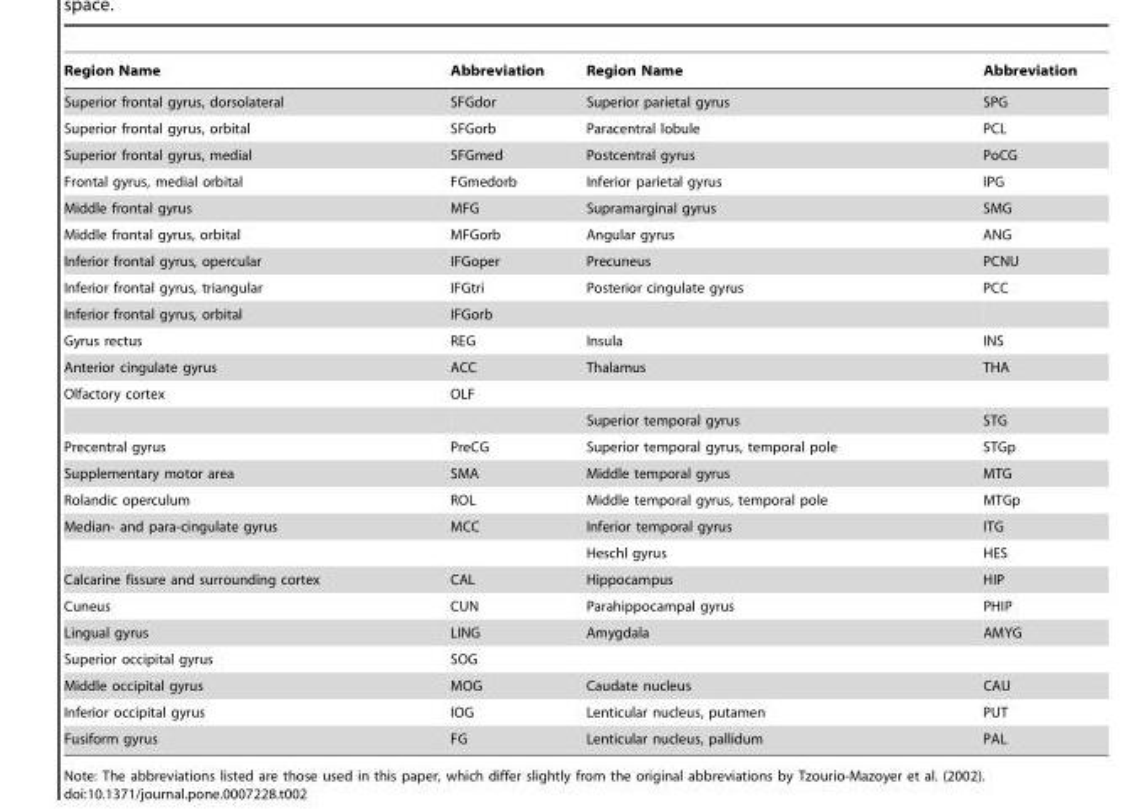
<table><thead><tr><td>Region Name</td><td>Abbreviation</td><td>Region Name</td><td>Abbreviation</td></tr></thead><tbody><tr><td>Superior frontal gyrus, dorsolateral</td><td>SFGdor</td><td>Superior parietal gyrus</td><td>SPG</td></tr><tr><td>Superior frontal gyrus, orbital</td><td>SFGorb</td><td>Paracentral lobule</td><td>PCL</td></tr><tr><td>Superior frontal gyrus, medial</td><td>SFGmed</td><td>Postcentral gyrus</td><td>PoCG</td></tr><tr><td>Frontal gyrus, medial orbital</td><td>FGmedorb</td><td>Inferior parietal gyrus</td><td>IPG</td></tr><tr><td>Middle frontal gyrus</td><td>MFG</td><td>Supramarginal gyrus</td><td>SMG</td></tr><tr><td>Middle frontal gyrus, orbital</td><td>MFGorb</td><td>Angular gyrus</td><td>ANG</td></tr><tr><td>Inferior frontal gyrus, opercular</td><td>IFGoper</td><td>Precuneus</td><td>PCNU</td></tr><tr><td>Inferior frontal gyrus, triangular</td><td>IFGtri</td><td>Posterior cingulate gyrus</td><td>PCC</td></tr><tr><td>Inferior frontal gyrus, orbital</td><td>IFGorb</td><td></td><td></td></tr><tr><td>Gyrus rectus</td><td>REG</td><td>Insula</td><td>INS</td></tr><tr><td>Anterior cingulate gyrus</td><td>ACC</td><td>Thalamus</td><td>THA</td></tr><tr><td rowspan="2">Olfactory cortex</td><td>OLF</td><td></td><td></td></tr><tr><td></td><td>Superior temporal gyrus</td><td>STG</td></tr><tr><td>Precentral gyrus</td><td>PreCG</td><td>Superior temporal gyrus, temporal pole</td><td>STGp</td></tr><tr><td>Supplementary motor area</td><td>SMA</td><td>Middle temporal gyrus</td><td>MTG</td></tr><tr><td>Rolandic operculum</td><td>ROL</td><td>Middle temporal gyrus, temporal pole</td><td>MTGp</td></tr><tr><td rowspan="2">Median- and para-cingulate gyrus</td><td>MCC</td><td>Inferior temporal gyrus</td><td>ITG</td></tr><tr><td></td><td>Heschl gyrus</td><td>HES</td></tr><tr><td>Calcarine fissure and surrounding cortex</td><td>CAL</td><td>Hippocampus</td><td>HIP</td></tr><tr><td>Cuneus</td><td>CUN</td><td>Parahippocampal gyrus</td><td>PHIP</td></tr><tr><td>Lingual gyrus</td><td>LING</td><td>Amygdala</td><td>AMYG</td></tr><tr><td>Superior occipital gyrus</td><td>SOG</td><td></td><td></td></tr><tr><td>Middle occipital gyrus</td><td>MOG</td><td>Caudate nucleus</td><td>CAU</td></tr><tr><td>Inferior occipital gyrus</td><td>IOG</td><td>Lenticular nucleus, putamen</td><td>PUT</td></tr><tr><td>Fusiform gyrus</td><td>FG</td><td>Lenticular nucleus, pallidum</td><td>PAL</td></tr></tbody></table>